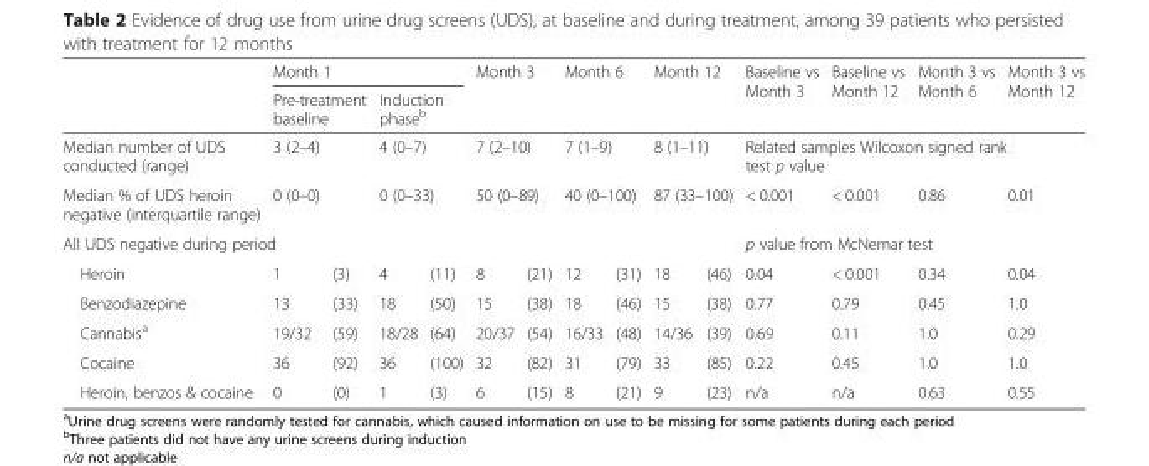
<table><thead><tr><td rowspan="2"></td><td colspan="4">Month 1</td><td rowspan="2" colspan="2">Month 3</td><td rowspan="2" colspan="2">Month 6</td><td rowspan="2" colspan="2">Month 12</td><td rowspan="2">Baseline vs Month 3</td><td rowspan="2">Baseline vs Month 12</td><td rowspan="2">Month 3 vs Month 6</td><td rowspan="2">Month 3 vs Month 12</td></tr><tr><td colspan="2">Pre-treatment baseline</td><td colspan="2">Induction phase<sup>b</sup></td></tr></thead><tbody><tr><td>Median number of UDS conducted (range)</td><td colspan="2">3 (2–4)</td><td colspan="2">4 (0–7)</td><td colspan="2">7 (2–10)</td><td colspan="2">7 (1–9)</td><td colspan="2">8 (1–11)</td><td colspan="4">Related samples Wilcoxon signed rank test p value</td></tr><tr><td>Median % of UDS heroin negative (interquartile range)</td><td colspan="2">0 (0–0)</td><td colspan="2">0 (0–33)</td><td colspan="2">50 (0–89)</td><td colspan="2">40 (0–100)</td><td colspan="2">87 (33–100)</td><td>&lt; 0.001</td><td>&lt; 0.001</td><td>0.86</td><td>0.01</td></tr><tr><td colspan="11">All UDS negative during period</td><td colspan="4">p value from McNemar test</td></tr><tr><td>Heroin</td><td>1</td><td>(3)</td><td>4</td><td>(11)</td><td>8</td><td>(21)</td><td>12</td><td>(31)</td><td>18</td><td>(46)</td><td>0.04</td><td>&lt; 0.001</td><td>0.34</td><td>0.04</td></tr><tr><td>Benzodiazepine</td><td>13</td><td>(33)</td><td>18</td><td>(50)</td><td>15</td><td>(38)</td><td>18</td><td>(46)</td><td>15</td><td>(38)</td><td>0.77</td><td>0.79</td><td>0.45</td><td>1.0</td></tr><tr><td>Cannabis<sup>a</sup></td><td>19/32</td><td>(59)</td><td>18/28</td><td>(64)</td><td>20/37</td><td>(54)</td><td>16/33</td><td>(48)</td><td>14/36</td><td>(39)</td><td>0.69</td><td>0.11</td><td>1.0</td><td>0.29</td></tr><tr><td>Cocaine</td><td>36</td><td>(92)</td><td>36</td><td>(100)</td><td>32</td><td>(82)</td><td>31</td><td>(79)</td><td>33</td><td>(85)</td><td>0.22</td><td>0.45</td><td>1.0</td><td>1.0</td></tr><tr><td>Heroin, benzos &amp; cocaine</td><td>0</td><td>(0)</td><td>1</td><td>(3)</td><td>6</td><td>(15)</td><td>8</td><td>(21)</td><td>9</td><td>(23)</td><td>n/a</td><td>n/a</td><td>0.63</td><td>0.55</td></tr></tbody></table>